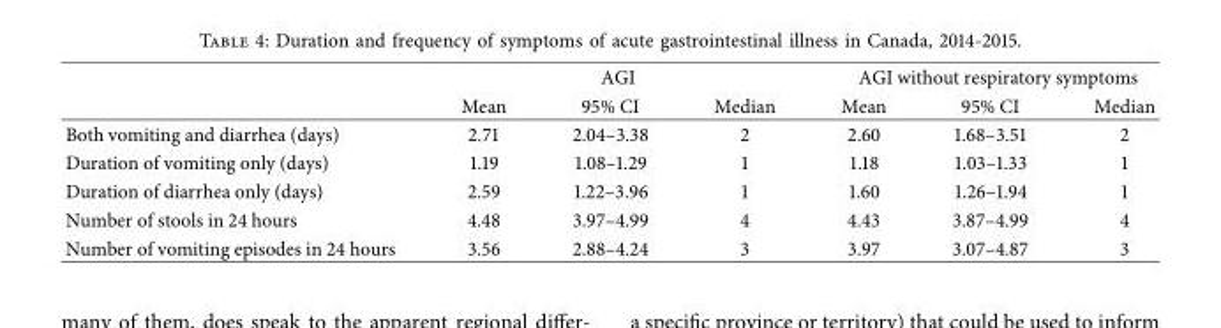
<table><thead><tr><td rowspan="2"></td><td colspan="3">AGI</td><td colspan="3">AGI without respiratory symptoms</td></tr><tr><td>Mean</td><td>95% CI</td><td>Median</td><td>Mean</td><td>95% CI</td><td>Median</td></tr></thead><tbody><tr><td>Both vomiting and diarrhea (days)</td><td>2.71</td><td>2.04–3.38</td><td>2</td><td>2.60</td><td>1.68–3.51</td><td>2</td></tr><tr><td>Duration of vomiting only (days)</td><td>1.19</td><td>1.08–1.29</td><td>1</td><td>1.18</td><td>1.03–1.33</td><td>1</td></tr><tr><td>Duration of diarrhea only (days)</td><td>2.59</td><td>1.22–3.96</td><td>1</td><td>1.60</td><td>1.26–1.94</td><td>1</td></tr><tr><td>Number of stools in 24 hours</td><td>4.48</td><td>3.97–4.99</td><td>4</td><td>4.43</td><td>3.87–4.99</td><td>4</td></tr><tr><td>Number of vomiting episodes in 24 hours</td><td>3.56</td><td>2.88–4.24</td><td>3</td><td>3.97</td><td>3.07–4.87</td><td>3</td></tr></tbody></table>